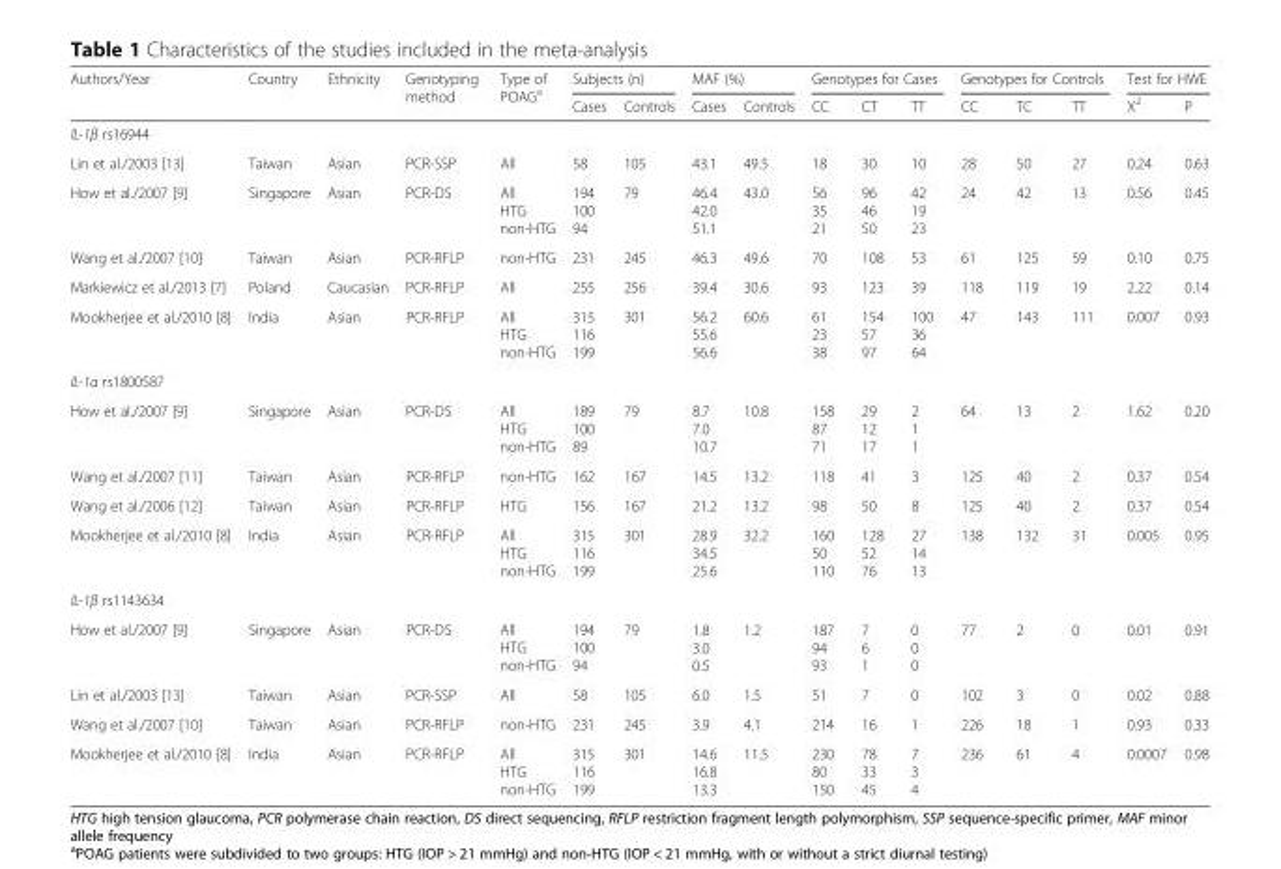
<table><thead><tr><td rowspan="2">Authors/Year</td><td rowspan="2">Country</td><td rowspan="2">Ethnicity</td><td rowspan="2">Genotyping method</td><td rowspan="2">Type of POAG<sup>a</sup></td><td colspan="2">Subjects (n)</td><td colspan="2">MAF (%)</td><td colspan="3">Genotypes for Cases</td><td colspan="3">Genotypes for Controls</td><td colspan="2">Test for HWE</td></tr><tr><td>Cases</td><td>Controls</td><td>Cases</td><td>Controls</td><td>CC</td><td>CT</td><td>TT</td><td>CC</td><td>TC</td><td>TT</td><td>X<sup>2</sup></td><td>P</td></tr></thead><tbody><tr><td colspan="17">IL-1β rs16944</td></tr><tr><td>Lin et al./2003 [13]</td><td>Taiwan</td><td>Asian</td><td>PCR-SSP</td><td>All</td><td>58</td><td>105</td><td>43.1</td><td>49.5</td><td>18</td><td>30</td><td>10</td><td>28</td><td>50</td><td>27</td><td>0.24</td><td>0.63</td></tr><tr><td>How et al./2007 [9]</td><td>Singapore</td><td>Asian</td><td>PCR-DS</td><td>All HTG non-HTG</td><td>194 100 94</td><td>79</td><td>46.4 42.0 51.1</td><td>43.0</td><td>56 35 21</td><td>96 46 50</td><td>42 19 23</td><td>24</td><td>42</td><td>13</td><td>0.56</td><td>0.45</td></tr><tr><td>Wang et al./2007 [10]</td><td>Taiwan</td><td>Asian</td><td>PCR-RFLP</td><td>non-HTG</td><td>231</td><td>245</td><td>46.3</td><td>49.6</td><td>70</td><td>108</td><td>53</td><td>61</td><td>125</td><td>59</td><td>0.10</td><td>0.75</td></tr><tr><td>Markiewicz et al./2013 [7]</td><td>Poland</td><td>Caucasian</td><td>PCR-RFLP</td><td>All</td><td>255</td><td>256</td><td>39.4</td><td>30.6</td><td>93</td><td>123</td><td>39</td><td>118</td><td>119</td><td>19</td><td>2.22</td><td>0.14</td></tr><tr><td>Mookherjee et al./2010 [8]</td><td>India</td><td>Asian</td><td>PCR-RFLP</td><td>All HTG non-HTG</td><td>315 116 199</td><td>301</td><td>56.2 55.6 56.6</td><td>60.6</td><td>61 23 38</td><td>154 57 97</td><td>100 36 64</td><td>47</td><td>143</td><td>111</td><td>0.007</td><td>0.93</td></tr><tr><td colspan="17">IL-1α rs1800587</td></tr><tr><td>How et al./2007 [9]</td><td>Singapore</td><td>Asian</td><td>PCR-DS</td><td>All HTG non-HTG</td><td>189 100 89</td><td>79</td><td>8.7 7.0 10.7</td><td>10.8</td><td>158 87 71</td><td>29 12 17</td><td>2 1 1</td><td>64</td><td>13</td><td>2</td><td>1.62</td><td>0.20</td></tr><tr><td>Wang et al./2007 [11]</td><td>Taiwan</td><td>Asian</td><td>PCR-RFLP</td><td>non-HTG</td><td>162</td><td>167</td><td>14.5</td><td>13.2</td><td>118</td><td>41</td><td>3</td><td>125</td><td>40</td><td>2</td><td>0.37</td><td>0.54</td></tr><tr><td>Wang et al./2006 [12]</td><td>Taiwan</td><td>Asian</td><td>PCR-RFLP</td><td>HTG</td><td>156</td><td>167</td><td>21.2</td><td>13.2</td><td>98</td><td>50</td><td>8</td><td>125</td><td>40</td><td>2</td><td>0.37</td><td>0.54</td></tr><tr><td>Mookherjee et al./2010 [8]</td><td>India</td><td>Asian</td><td>PCR-RFLP</td><td>All HTG non-HTG</td><td>315 116 199</td><td>301</td><td>28.9 34.5 25.6</td><td>32.2</td><td>160 50 110</td><td>128 52 76</td><td>27 14 13</td><td>138</td><td>132</td><td>31</td><td>0.005</td><td>0.95</td></tr><tr><td colspan="17">IL-1β rs1143634</td></tr><tr><td>How et al./2007 [9]</td><td>Singapore</td><td>Asian</td><td>PCR-DS</td><td>All HTG non-HTG</td><td>194 100 94</td><td>79</td><td>1.8 3.0 0.5</td><td>1.2</td><td>187 94 93</td><td>7 6 1</td><td>0 0 0</td><td>77</td><td>2</td><td>0</td><td>0.01</td><td>0.91</td></tr><tr><td>Lin et al./2003 [13]</td><td>Taiwan</td><td>Asian</td><td>PCR-SSP</td><td>All</td><td>58</td><td>105</td><td>6.0</td><td>1.5</td><td>51</td><td>7</td><td>0</td><td>102</td><td>3</td><td>0</td><td>0.02</td><td>0.88</td></tr><tr><td>Wang et al./2007 [10]</td><td>Taiwan</td><td>Asian</td><td>PCR-RFLP</td><td>non-HTG</td><td>231</td><td>245</td><td>3.9</td><td>4.1</td><td>214</td><td>16</td><td>1</td><td>226</td><td>18</td><td>1</td><td>0.93</td><td>0.33</td></tr><tr><td>Mookherjee et al./2010 [8]</td><td>India</td><td>Asian</td><td>PCR-RFLP</td><td>All HTG non-HTG</td><td>315 116 199</td><td>301</td><td>14.6 16.8 13.3</td><td>11.5</td><td>230 80 150</td><td>78 33 45</td><td>7 3 4</td><td>236</td><td>61</td><td>4</td><td>0.0007</td><td>0.98</td></tr></tbody></table>